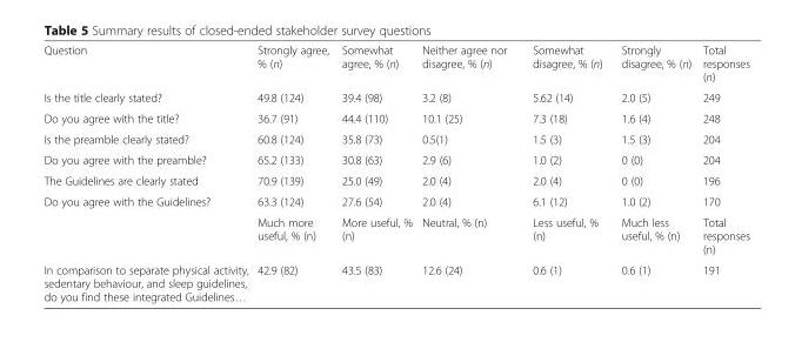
<table><tbody><tr><td>Question</td><td>Strongly agree, % (n)</td><td>Somewhat agree, % (n)</td><td>Neither agree nor disagree, % (n)</td><td>Somewhat disagree, % (n)</td><td>Strongly disagree, % (n)</td><td>Total responses (n)</td></tr><tr><td>Is the title clearly stated?</td><td>49.8 (124)</td><td>39.4 (98)</td><td>3.2 (8)</td><td>5.62 (14)</td><td>2.0 (5)</td><td>249</td></tr><tr><td>Do you agree with the title?</td><td>36.7 (91)</td><td>44.4 (110)</td><td>10.1 (25)</td><td>7.3 (18)</td><td>1.6 (4)</td><td>248</td></tr><tr><td>Is the preamble clearly stated?</td><td>60.8 (124)</td><td>35.8 (73)</td><td>0.5(1)</td><td>1.5 (3)</td><td>1.5 (3)</td><td>204</td></tr><tr><td>Do you agree with the preamble?</td><td>65.2 (133)</td><td>30.8 (63)</td><td>2.9 (6)</td><td>1.0 (2)</td><td>0 (0)</td><td>204</td></tr><tr><td>The Guidelines are clearly stated</td><td>70.9 (139)</td><td>25.0 (49)</td><td>2.0 (4)</td><td>2.0 (4)</td><td>0 (0)</td><td>196</td></tr><tr><td rowspan="2">Do you agree with the Guidelines?</td><td>63.3 (124)</td><td>27.6 (54)</td><td>2.0 (4)</td><td>6.1 (12)</td><td>1.0 (2)</td><td>170</td></tr><tr><td>Much more useful, % (n)</td><td>More useful, % (n)</td><td>Neutral, % (n)</td><td>Less useful, % (n)</td><td>Much less useful, % (n)</td><td>Total responses (n)</td></tr><tr><td>In comparison to separate physical activity, sedentary behaviour, and sleep guidelines, do you find these integrated Guidelines…</td><td>42.9 (82)</td><td>43.5 (83)</td><td>12.6 (24)</td><td>0.6 (1)</td><td>0.6 (1)</td><td>191</td></tr></tbody></table>